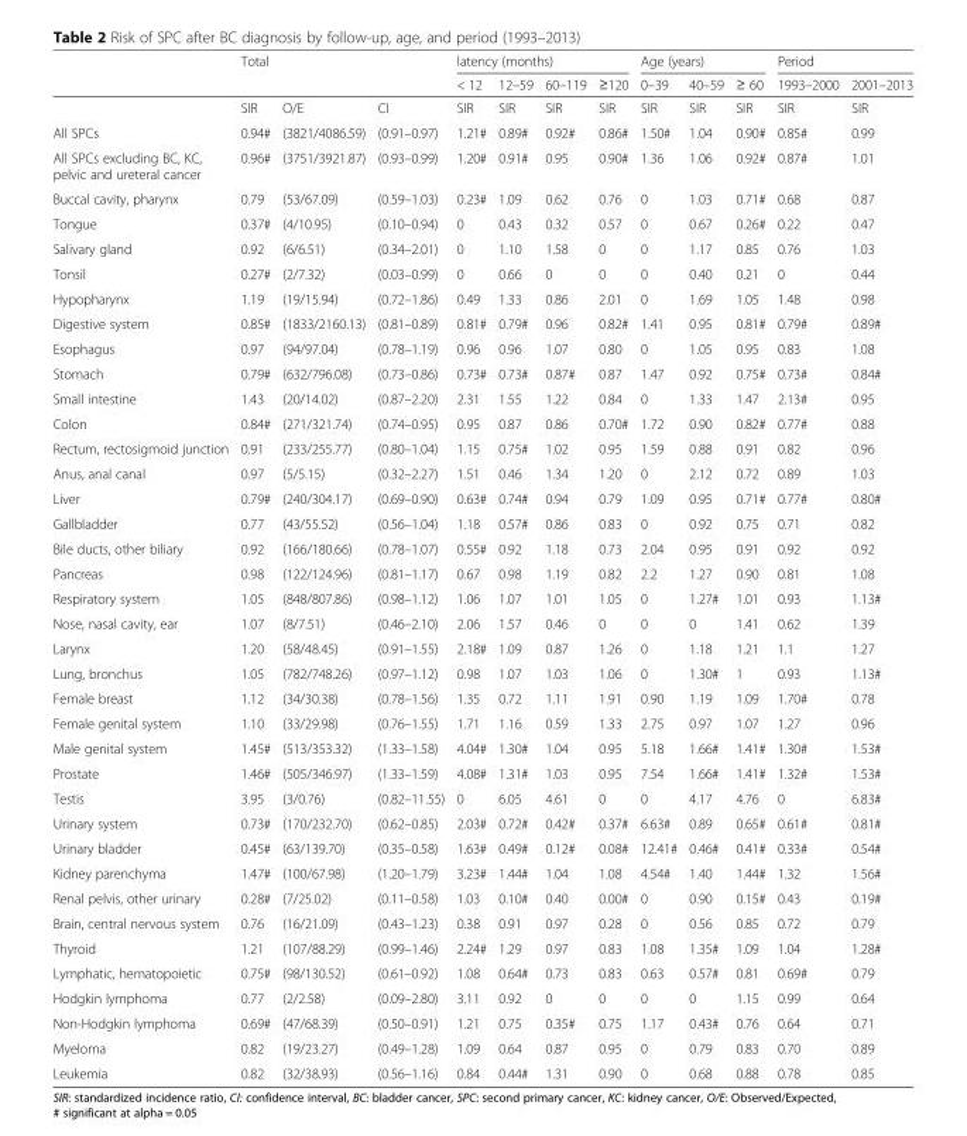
<table><thead><tr><td rowspan="3"></td><td rowspan="2" colspan="3">Total</td><td colspan="4">latency (months)</td><td colspan="3">Age (years)</td><td colspan="2">Period</td></tr><tr><td rowspan="2">&lt; 12 SIR</td><td rowspan="2">12–59 SIR</td><td rowspan="2">60–119 SIR</td><td rowspan="2">≥120 SIR</td><td rowspan="2">0–39 SIR</td><td rowspan="2">40–59 SIR</td><td rowspan="2">≥ 60 SIR</td><td rowspan="2">1993–2000 SIR</td><td rowspan="2">2001–2013 SIR</td></tr><tr><td>SIR</td><td>O/E</td><td>CI</td></tr></thead><tbody><tr><td>All SPCs</td><td>0.94#</td><td>(3821/4086.59)</td><td>(0.91–0.97)</td><td>1.21#</td><td>0.89#</td><td>0.92#</td><td>0.86#</td><td>1.50#</td><td>1.04</td><td>0.90#</td><td>0.85#</td><td>0.99</td></tr><tr><td>All SPCs excluding BC, KC, pelvic and ureteral cancer</td><td>0.96#</td><td>(3751/3921.87)</td><td>(0.93–0.99)</td><td>1.20#</td><td>0.91#</td><td>0.95</td><td>0.90#</td><td>1.36</td><td>1.06</td><td>0.92#</td><td>0.87#</td><td>1.01</td></tr><tr><td>Buccal cavity, pharynx</td><td>0.79</td><td>(53/67.09)</td><td>(0.59–1.03)</td><td>0.23#</td><td>1.09</td><td>0.62</td><td>0.76</td><td>0</td><td>1.03</td><td>0.71#</td><td>0.68</td><td>0.87</td></tr><tr><td>Tongue</td><td>0.37#</td><td>(4/10.95)</td><td>(0.10–0.94)</td><td>0</td><td>0.43</td><td>0.32</td><td>0.57</td><td>0</td><td>0.67</td><td>0.26#</td><td>0.22</td><td>0.47</td></tr><tr><td>Salivary gland</td><td>0.92</td><td>(6/6.51)</td><td>(0.34–2.01)</td><td>0</td><td>1.10</td><td>1.58</td><td>0</td><td>0</td><td>1.17</td><td>0.85</td><td>0.76</td><td>1.03</td></tr><tr><td>Tonsil</td><td>0.27#</td><td>(2/7.32)</td><td>(0.03–0.99)</td><td>0</td><td>0.66</td><td>0</td><td>0</td><td>0</td><td>0.40</td><td>0.21</td><td>0</td><td>0.44</td></tr><tr><td>Hypopharynx</td><td>1.19</td><td>(19/15.94)</td><td>(0.72–1.86)</td><td>0.49</td><td>1.33</td><td>0.86</td><td>2.01</td><td>0</td><td>1.69</td><td>1.05</td><td>1.48</td><td>0.98</td></tr><tr><td>Digestive system</td><td>0.85#</td><td>(1833/2160.13)</td><td>(0.81–0.89)</td><td>0.81#</td><td>0.79#</td><td>0.96</td><td>0.82#</td><td>1.41</td><td>0.95</td><td>0.81#</td><td>0.79#</td><td>0.89#</td></tr><tr><td>Esophagus</td><td>0.97</td><td>(94/97.04)</td><td>(0.78–1.19)</td><td>0.96</td><td>0.96</td><td>1.07</td><td>0.80</td><td>0</td><td>1.05</td><td>0.95</td><td>0.83</td><td>1.08</td></tr><tr><td>Stomach</td><td>0.79#</td><td>(632/796.08)</td><td>(0.73–0.86)</td><td>0.73#</td><td>0.73#</td><td>0.87#</td><td>0.87</td><td>1.47</td><td>0.92</td><td>0.75#</td><td>0.73#</td><td>0.84#</td></tr><tr><td>Small intestine</td><td>1.43</td><td>(20/14.02)</td><td>(0.87–2.20)</td><td>2.31</td><td>1.55</td><td>1.22</td><td>0.84</td><td>0</td><td>1.33</td><td>1.47</td><td>2.13#</td><td>0.95</td></tr><tr><td>Colon</td><td>0.84#</td><td>(271/321.74)</td><td>(0.74–0.95)</td><td>0.95</td><td>0.87</td><td>0.86</td><td>0.70#</td><td>1.72</td><td>0.90</td><td>0.82#</td><td>0.77#</td><td>0.88</td></tr><tr><td>Rectum, rectosigmoid junction</td><td>0.91</td><td>(233/255.77)</td><td>(0.80–1.04)</td><td>1.15</td><td>0.75#</td><td>1.02</td><td>0.95</td><td>1.59</td><td>0.88</td><td>0.91</td><td>0.82</td><td>0.96</td></tr><tr><td>Anus, anal canal</td><td>0.97</td><td>(5/5.15)</td><td>(0.32–2.27)</td><td>1.51</td><td>0.46</td><td>1.34</td><td>1.20</td><td>0</td><td>2.12</td><td>0.72</td><td>0.89</td><td>1.03</td></tr><tr><td>Liver</td><td>0.79#</td><td>(240/304.17)</td><td>(0.69–0.90)</td><td>0.63#</td><td>0.74#</td><td>0.94</td><td>0.79</td><td>1.09</td><td>0.95</td><td>0.71#</td><td>0.77#</td><td>0.80#</td></tr><tr><td>Gallbladder</td><td>0.77</td><td>(43/55.52)</td><td>(0.56–1.04)</td><td>1.18</td><td>0.57#</td><td>0.86</td><td>0.83</td><td>0</td><td>0.92</td><td>0.75</td><td>0.71</td><td>0.82</td></tr><tr><td>Bile ducts, other biliary</td><td>0.92</td><td>(166/180.66)</td><td>(0.78–1.07)</td><td>0.55#</td><td>0.92</td><td>1.18</td><td>0.73</td><td>2.04</td><td>0.95</td><td>0.91</td><td>0.92</td><td>0.92</td></tr><tr><td>Pancreas</td><td>0.98</td><td>(122/124.96)</td><td>(0.81–1.17)</td><td>0.67</td><td>0.98</td><td>1.19</td><td>0.82</td><td>2.2</td><td>1.27</td><td>0.90</td><td>0.81</td><td>1.08</td></tr><tr><td>Respiratory system</td><td>1.05</td><td>(848/807.86)</td><td>(0.98–1.12)</td><td>1.06</td><td>1.07</td><td>1.01</td><td>1.05</td><td>0</td><td>1.27#</td><td>1.01</td><td>0.93</td><td>1.13#</td></tr><tr><td>Nose, nasal cavity, ear</td><td>1.07</td><td>(8/7.51)</td><td>(0.46–2.10)</td><td>2.06</td><td>1.57</td><td>0.46</td><td>0</td><td>0</td><td>0</td><td>1.41</td><td>0.62</td><td>1.39</td></tr><tr><td>Larynx</td><td>1.20</td><td>(58/48.45)</td><td>(0.91–1.55)</td><td>2.18#</td><td>1.09</td><td>0.87</td><td>1.26</td><td>0</td><td>1.18</td><td>1.21</td><td>1.1</td><td>1.27</td></tr><tr><td>Lung, bronchus</td><td>1.05</td><td>(782/748.26)</td><td>(0.97–1.12)</td><td>0.98</td><td>1.07</td><td>1.03</td><td>1.06</td><td>0</td><td>1.30#</td><td>1</td><td>0.93</td><td>1.13#</td></tr><tr><td>Female breast</td><td>1.12</td><td>(34/30.38)</td><td>(0.78–1.56)</td><td>1.35</td><td>0.72</td><td>1.11</td><td>1.91</td><td>0.90</td><td>1.19</td><td>1.09</td><td>1.70#</td><td>0.78</td></tr><tr><td>Female genital system</td><td>1.10</td><td>(33/29.98)</td><td>(0.76–1.55)</td><td>1.71</td><td>1.16</td><td>0.59</td><td>1.33</td><td>2.75</td><td>0.97</td><td>1.07</td><td>1.27</td><td>0.96</td></tr><tr><td>Male genital system</td><td>1.45#</td><td>(513/353.32)</td><td>(1.33–1.58)</td><td>4.04#</td><td>1.30#</td><td>1.04</td><td>0.95</td><td>5.18</td><td>1.66#</td><td>1.41#</td><td>1.30#</td><td>1.53#</td></tr><tr><td>Prostate</td><td>1.46#</td><td>(505/346.97)</td><td>(1.33–1.59)</td><td>4.08#</td><td>1.31#</td><td>1.03</td><td>0.95</td><td>7.54</td><td>1.66#</td><td>1.41#</td><td>1.32#</td><td>1.53#</td></tr><tr><td>Testis</td><td>3.95</td><td>(3/0.76)</td><td>(0.82–11.55)</td><td>0</td><td>6.05</td><td>4.61</td><td>0</td><td>0</td><td>4.17</td><td>4.76</td><td>0</td><td>6.83#</td></tr><tr><td>Urinary system</td><td>0.73#</td><td>(170/232.70)</td><td>(0.62–0.85)</td><td>2.03#</td><td>0.72#</td><td>0.42#</td><td>0.37#</td><td>6.63#</td><td>0.89</td><td>0.65#</td><td>0.61#</td><td>0.81#</td></tr><tr><td>Urinary bladder</td><td>0.45#</td><td>(63/139.70)</td><td>(0.35–0.58)</td><td>1.63#</td><td>0.49#</td><td>0.12#</td><td>0.08#</td><td>12.41#</td><td>0.46#</td><td>0.41#</td><td>0.33#</td><td>0.54#</td></tr><tr><td>Kidney parenchyma</td><td>1.47#</td><td>(100/67.98)</td><td>(1.20–1.79)</td><td>3.23#</td><td>1.44#</td><td>1.04</td><td>1.08</td><td>4.54#</td><td>1.40</td><td>1.44#</td><td>1.32</td><td>1.56#</td></tr><tr><td>Renal pelvis, other urinary</td><td>0.28#</td><td>(7/25.02)</td><td>(0.11–0.58)</td><td>1.03</td><td>0.10#</td><td>0.40</td><td>0.00#</td><td>0</td><td>0.90</td><td>0.15#</td><td>0.43</td><td>0.19#</td></tr><tr><td>Brain, central nervous system</td><td>0.76</td><td>(16/21.09)</td><td>(0.43–1.23)</td><td>0.38</td><td>0.91</td><td>0.97</td><td>0.28</td><td>0</td><td>0.56</td><td>0.85</td><td>0.72</td><td>0.79</td></tr><tr><td>Thyroid</td><td>1.21</td><td>(107/88.29)</td><td>(0.99–1.46)</td><td>2.24#</td><td>1.29</td><td>0.97</td><td>0.83</td><td>1.08</td><td>1.35#</td><td>1.09</td><td>1.04</td><td>1.28#</td></tr><tr><td>Lymphatic, hematopoietic</td><td>0.75#</td><td>(98/130.52)</td><td>(0.61–0.92)</td><td>1.08</td><td>0.64#</td><td>0.73</td><td>0.83</td><td>0.63</td><td>0.57#</td><td>0.81</td><td>0.69#</td><td>0.79</td></tr><tr><td>Hodgkin lymphoma</td><td>0.77</td><td>(2/2.58)</td><td>(0.09–2.80)</td><td>3.11</td><td>0.92</td><td>0</td><td>0</td><td>0</td><td>0</td><td>1.15</td><td>0.99</td><td>0.64</td></tr><tr><td>Non-Hodgkin lymphoma</td><td>0.69#</td><td>(47/68.39)</td><td>(0.50–0.91)</td><td>1.21</td><td>0.75</td><td>0.35#</td><td>0.75</td><td>1.17</td><td>0.43#</td><td>0.76</td><td>0.64</td><td>0.71</td></tr><tr><td>Myeloma</td><td>0.82</td><td>(19/23.27)</td><td>(0.49–1.28)</td><td>1.09</td><td>0.64</td><td>0.87</td><td>0.95</td><td>0</td><td>0.79</td><td>0.83</td><td>0.70</td><td>0.89</td></tr><tr><td>Leukemia</td><td>0.82</td><td>(32/38.93)</td><td>(0.56–1.16)</td><td>0.84</td><td>0.44#</td><td>1.31</td><td>0.90</td><td>0</td><td>0.68</td><td>0.88</td><td>0.78</td><td>0.85</td></tr></tbody></table>